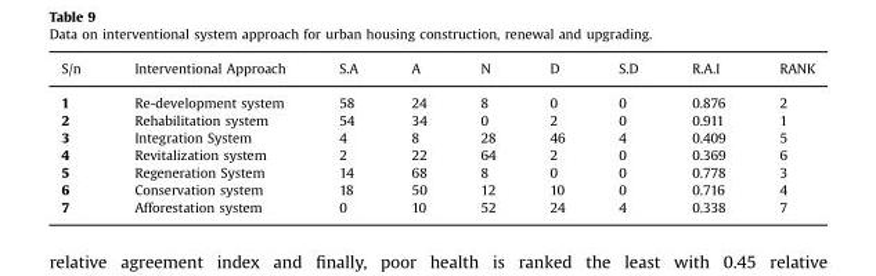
<table><thead><tr><td>S/n</td><td>Interventional Approach</td><td>S.A</td><td>A</td><td>N</td><td>D</td><td>S.D</td><td>R.A.I</td><td>RANK</td></tr></thead><tbody><tr><td>1</td><td>Re-development system</td><td>58</td><td>24</td><td>8</td><td>0</td><td>0</td><td>0.876</td><td>2</td></tr><tr><td>2</td><td>Rehabilitation system</td><td>54</td><td>34</td><td>0</td><td>2</td><td>0</td><td>0.911</td><td>1</td></tr><tr><td>3</td><td>Integration System</td><td>4</td><td>8</td><td>28</td><td>46</td><td>4</td><td>0.409</td><td>5</td></tr><tr><td>4</td><td>Revitalization system</td><td>2</td><td>22</td><td>64</td><td>2</td><td>0</td><td>0.369</td><td>6</td></tr><tr><td>5</td><td>Regeneration System</td><td>14</td><td>68</td><td>8</td><td>0</td><td>0</td><td>0.778</td><td>3</td></tr><tr><td>6</td><td>Conservation system</td><td>18</td><td>50</td><td>12</td><td>10</td><td>0</td><td>0.716</td><td>4</td></tr><tr><td>7</td><td>Afforestation system</td><td>0</td><td>10</td><td>52</td><td>24</td><td>4</td><td>0.338</td><td>7</td></tr></tbody></table>